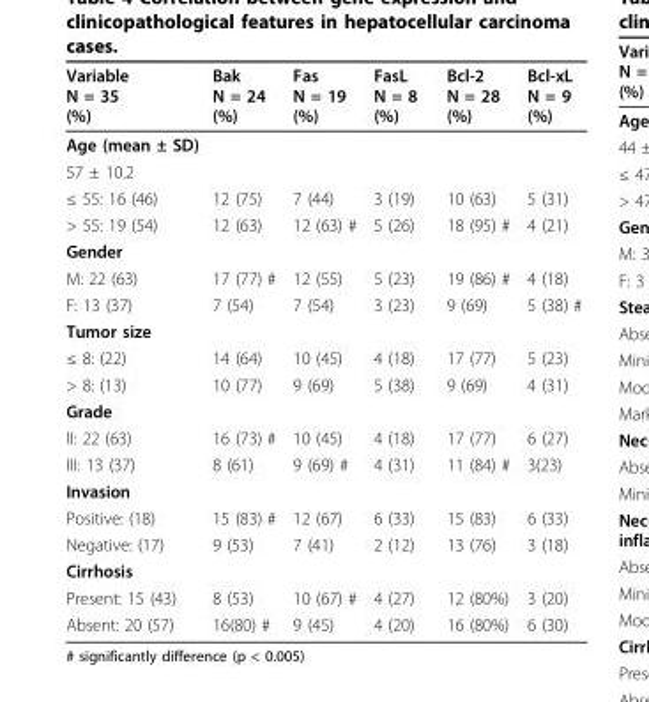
<table><thead><tr><td>Variable N = 35 (%)</td><td>Bak N = 24 (%)</td><td>Fas N = 19 (%)</td><td>FasL N = 8 (%)</td><td>Bcl-2 N = 28 (%)</td><td>Bcl-xL N = 9 (%)</td></tr></thead><tbody><tr><td colspan="6">Age (mean ± SD)</td></tr><tr><td colspan="6">57 ± 10.2</td></tr><tr><td>≤ 55: 16 (46)</td><td>12 (75)</td><td>7 (44)</td><td>3 (19)</td><td>10 (63)</td><td>5 (31)</td></tr><tr><td>&gt; 55: 19 (54)</td><td>12 (63)</td><td>12 (63) #</td><td>5 (26)</td><td>18 (95) #</td><td>4 (21)</td></tr><tr><td colspan="6">Gender</td></tr><tr><td>M: 22 (63)</td><td>17 (77) #</td><td>12 (55)</td><td>5 (23)</td><td>19 (86) #</td><td>4 (18)</td></tr><tr><td>F: 13 (37)</td><td>7 (54)</td><td>7 (54)</td><td>3 (23)</td><td>9 (69)</td><td>5 (38) #</td></tr><tr><td colspan="6">Tumor size</td></tr><tr><td>≤ 8: (22)</td><td>14 (64)</td><td>10 (45)</td><td>4 (18)</td><td>17 (77)</td><td>5 (23)</td></tr><tr><td>&gt; 8: (13)</td><td>10 (77)</td><td>9 (69)</td><td>5 (38)</td><td>9 (69)</td><td>4 (31)</td></tr><tr><td colspan="6">Grade</td></tr><tr><td>II: 22 (63)</td><td>16 (73) #</td><td>10 (45)</td><td>4 (18)</td><td>17 (77)</td><td>6 (27)</td></tr><tr><td>III: 13 (37)</td><td>8 (61)</td><td>9 (69) #</td><td>4 (31)</td><td>11 (84) #</td><td>3(23)</td></tr><tr><td colspan="6">Invasion</td></tr><tr><td>Positive: (18)</td><td>15 (83) #</td><td>12 (67)</td><td>6 (33)</td><td>15 (83)</td><td>6 (33)</td></tr><tr><td>Negative: (17)</td><td>9 (53)</td><td>7 (41)</td><td>2 (12)</td><td>13 (76)</td><td>3 (18)</td></tr><tr><td colspan="6">Cirrhosis</td></tr><tr><td>Present: 15 (43)</td><td>8 (53)</td><td>10 (67) #</td><td>4 (27)</td><td>12 (80%)</td><td>3 (20)</td></tr><tr><td>Absent: 20 (57)</td><td>16(80) #</td><td>9 (45)</td><td>4 (20)</td><td>16 (80%)</td><td>6 (30)</td></tr></tbody></table>